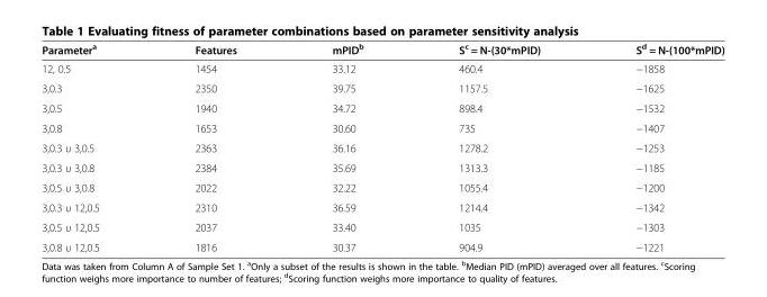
<table><thead><tr><td>Parameter<sup>a</sup></td><td>Features</td><td>mPID<sup>b</sup></td><td>S<sup>c</sup> = N-(30*mPID)</td><td>S<sup>d</sup> = N-(100*mPID)</td></tr></thead><tbody><tr><td>12, 0.5</td><td>1454</td><td>33.12</td><td>460.4</td><td>−1858</td></tr><tr><td>3,0.3</td><td>2350</td><td>39.75</td><td>1157.5</td><td>−1625</td></tr><tr><td>3,0.5</td><td>1940</td><td>34.72</td><td>898.4</td><td>−1532</td></tr><tr><td>3,0.8</td><td>1653</td><td>30.60</td><td>735</td><td>−1407</td></tr><tr><td>3,0.3 υ 3,0.5</td><td>2363</td><td>36.16</td><td>1278.2</td><td>−1253</td></tr><tr><td>3,0.3 υ 3,0.8</td><td>2384</td><td>35.69</td><td>1313.3</td><td>−1185</td></tr><tr><td>3,0.5 υ 3,0.8</td><td>2022</td><td>32.22</td><td>1055.4</td><td>−1200</td></tr><tr><td>3,0.3 υ 12,0.5</td><td>2310</td><td>36.59</td><td>1214.4</td><td>−1342</td></tr><tr><td>3,0.5 υ 12,0.5</td><td>2037</td><td>33.40</td><td>1035</td><td>−1303</td></tr><tr><td>3,0.8 υ 12,0.5</td><td>1816</td><td>30.37</td><td>904.9</td><td>−1221</td></tr></tbody></table>